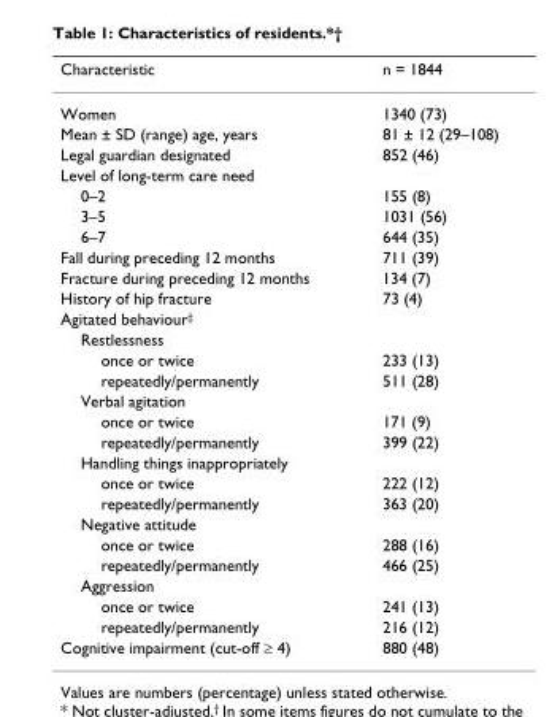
<table><thead><tr><td>Characteristic</td><td>n = 1844</td></tr></thead><tbody><tr><td>Women</td><td>1340 (73)</td></tr><tr><td>Mean ± SD (range) age, years</td><td>81 ± 12 (29–108)</td></tr><tr><td>Legal guardian designated</td><td>852 (46)</td></tr><tr><td colspan="2">Level of long-term care need</td></tr><tr><td>0–2</td><td>155 (8)</td></tr><tr><td>3–5</td><td>1031 (56)</td></tr><tr><td>6–7</td><td>644 (35)</td></tr><tr><td>Fall during preceding 12 months</td><td>711 (39)</td></tr><tr><td>Fracture during preceding 12 months</td><td>134 (7)</td></tr><tr><td>History of hip fracture</td><td>73 (4)</td></tr><tr><td colspan="2">Agitated behaviour<sup>‡</sup></td></tr><tr><td colspan="2">Restlessness</td></tr><tr><td>once or twice</td><td>233 (13)</td></tr><tr><td>repeatedly/permanently</td><td>511 (28)</td></tr><tr><td colspan="2">Verbal agitation</td></tr><tr><td>once or twice</td><td>171 (9)</td></tr><tr><td>repeatedly/permanently</td><td>399 (22)</td></tr><tr><td colspan="2">Handling things inappropriately</td></tr><tr><td>once or twice</td><td>222 (12)</td></tr><tr><td>repeatedly/permanently</td><td>363 (20)</td></tr><tr><td colspan="2">Negative attitude</td></tr><tr><td>once or twice</td><td>288 (16)</td></tr><tr><td>repeatedly/permanently</td><td>466 (25)</td></tr><tr><td colspan="2">Aggression</td></tr><tr><td>once or twice</td><td>241 (13)</td></tr><tr><td>repeatedly/permanently</td><td>216 (12)</td></tr><tr><td>Cognitive impairment (cut-off ≥ 4)</td><td>880 (48)</td></tr></tbody></table>